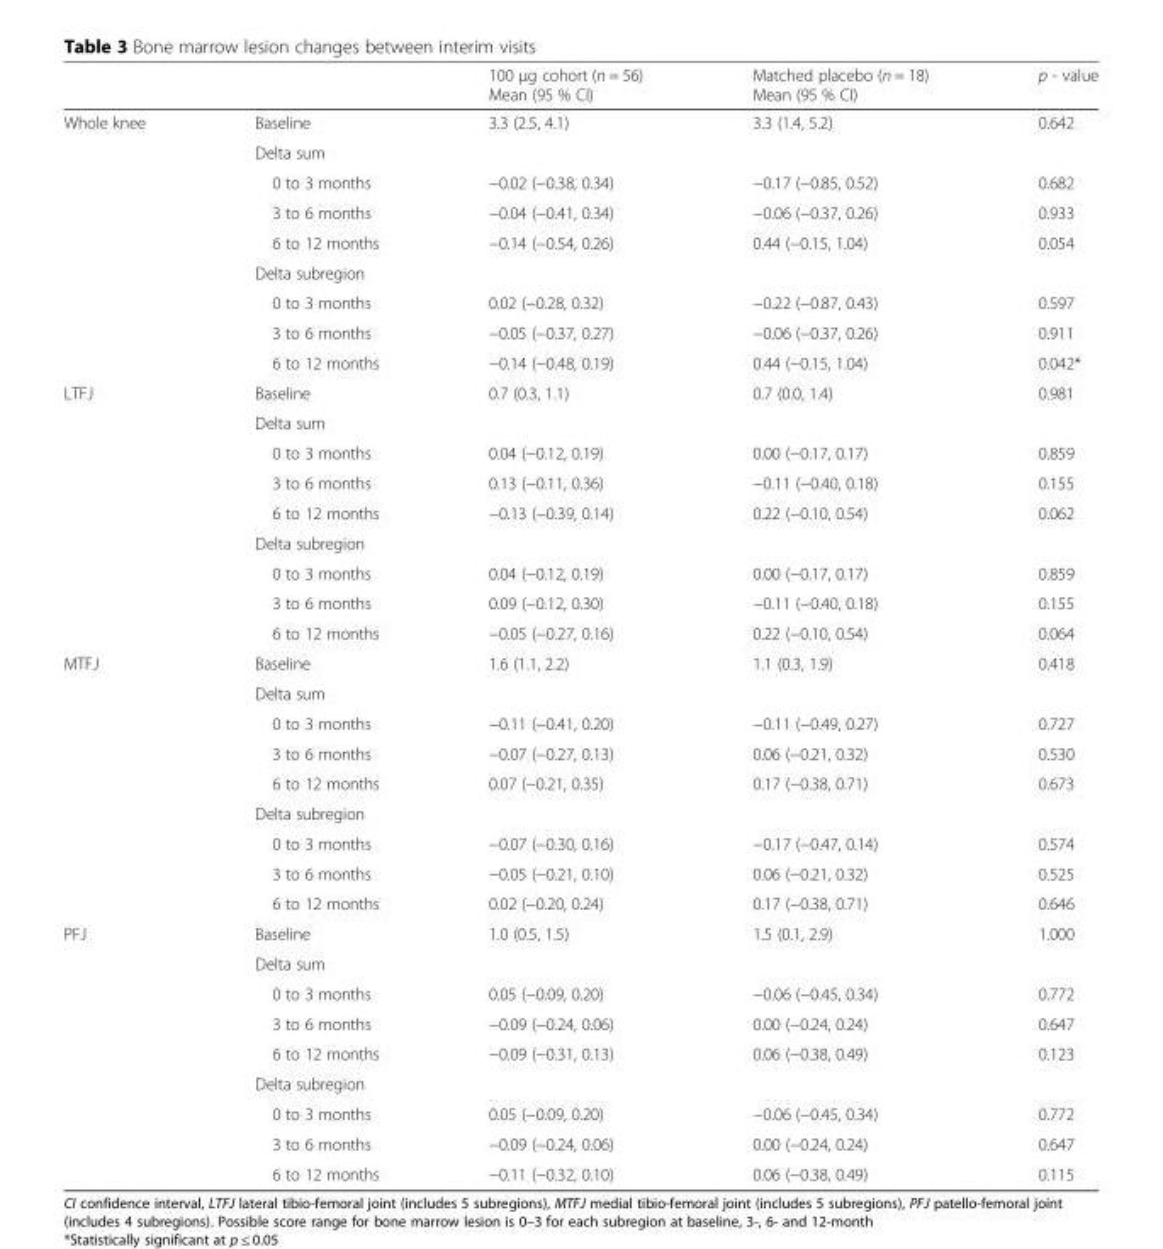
<table><thead><tr><td></td><td></td><td>100 μg cohort (n = 56) Mean (95 % CI)</td><td>Matched placebo (n = 18) Mean (95 % CI)</td><td>p - value</td></tr></thead><tbody><tr><td rowspan="9">Whole knee</td><td>Baseline</td><td>3.3 (2.5, 4.1)</td><td>3.3 (1.4, 5.2)</td><td>0.642</td></tr><tr><td>Delta sum</td><td></td><td></td><td></td></tr><tr><td>0 to 3 months</td><td>−0.02 (−0.38, 0.34)</td><td>−0.17 (−0.85, 0.52)</td><td>0.682</td></tr><tr><td>3 to 6 months</td><td>−0.04 (−0.41, 0.34)</td><td>−0.06 (−0.37, 0.26)</td><td>0.933</td></tr><tr><td>6 to 12 months</td><td>−0.14 (−0.54, 0.26)</td><td>0.44 (−0.15, 1.04)</td><td>0.054</td></tr><tr><td>Delta subregion</td><td></td><td></td><td></td></tr><tr><td>0 to 3 months</td><td>0.02 (−0.28, 0.32)</td><td>−0.22 (−0.87, 0.43)</td><td>0.597</td></tr><tr><td>3 to 6 months</td><td>−0.05 (−0.37, 0.27)</td><td>−0.06 (−0.37, 0.26)</td><td>0.911</td></tr><tr><td>6 to 12 months</td><td>−0.14 (−0.48, 0.19)</td><td>0.44 (−0.15, 1.04)</td><td>0.042*</td></tr><tr><td rowspan="9">LTFJ</td><td>Baseline</td><td>0.7 (0.3, 1.1)</td><td>0.7 (0.0, 1.4)</td><td>0.981</td></tr><tr><td>Delta sum</td><td></td><td></td><td></td></tr><tr><td>0 to 3 months</td><td>0.04 (−0.12, 0.19)</td><td>0.00 (−0.17, 0.17)</td><td>0.859</td></tr><tr><td>3 to 6 months</td><td>0.13 (−0.11, 0.36)</td><td>−0.11 (−0.40, 0.18)</td><td>0.155</td></tr><tr><td>6 to 12 months</td><td>−0.13 (−0.39, 0.14)</td><td>0.22 (−0.10, 0.54)</td><td>0.062</td></tr><tr><td>Delta subregion</td><td></td><td></td><td></td></tr><tr><td>0 to 3 months</td><td>0.04 (−0.12, 0.19)</td><td>0.00 (−0.17, 0.17)</td><td>0.859</td></tr><tr><td>3 to 6 months</td><td>0.09 (−0.12, 0.30)</td><td>−0.11 (−0.40, 0.18)</td><td>0.155</td></tr><tr><td>6 to 12 months</td><td>−0.05 (−0.27, 0.16)</td><td>0.22 (−0.10, 0.54)</td><td>0.064</td></tr><tr><td rowspan="9">MTFJ</td><td>Baseline</td><td>1.6 (1.1, 2.2)</td><td>1.1 (0.3, 1.9)</td><td>0.418</td></tr><tr><td>Delta sum</td><td></td><td></td><td></td></tr><tr><td>0 to 3 months</td><td>−0.11 (−0.41, 0.20)</td><td>−0.11 (−0.49, 0.27)</td><td>0.727</td></tr><tr><td>3 to 6 months</td><td>−0.07 (−0.27, 0.13)</td><td>0.06 (−0.21, 0.32)</td><td>0.530</td></tr><tr><td>6 to 12 months</td><td>0.07 (−0.21, 0.35)</td><td>0.17 (−0.38, 0.71)</td><td>0.673</td></tr><tr><td>Delta subregion</td><td></td><td></td><td></td></tr><tr><td>0 to 3 months</td><td>−0.07 (−0.30, 0.16)</td><td>−0.17 (−0.47, 0.14)</td><td>0.574</td></tr><tr><td>3 to 6 months</td><td>−0.05 (−0.21, 0.10)</td><td>0.06 (−0.21, 0.32)</td><td>0.525</td></tr><tr><td>6 to 12 months</td><td>0.02 (−0.20, 0.24)</td><td>0.17 (−0.38, 0.71)</td><td>0.646</td></tr><tr><td rowspan="9">PFJ</td><td>Baseline</td><td>1.0 (0.5, 1.5)</td><td>1.5 (0.1, 2.9)</td><td>1.000</td></tr><tr><td>Delta sum</td><td></td><td></td><td></td></tr><tr><td>0 to 3 months</td><td>0.05 (−0.09, 0.20)</td><td>−0.06 (−0.45, 0.34)</td><td>0.772</td></tr><tr><td>3 to 6 months</td><td>−0.09 (−0.24, 0.06)</td><td>0.00 (−0.24, 0.24)</td><td>0.647</td></tr><tr><td>6 to 12 months</td><td>−0.09 (−0.31, 0.13)</td><td>0.06 (−0.38, 0.49)</td><td>0.123</td></tr><tr><td>Delta subregion</td><td></td><td></td><td></td></tr><tr><td>0 to 3 months</td><td>0.05 (−0.09, 0.20)</td><td>−0.06 (−0.45, 0.34)</td><td>0.772</td></tr><tr><td>3 to 6 months</td><td>−0.09 (−0.24, 0.06)</td><td>0.00 (−0.24, 0.24)</td><td>0.647</td></tr><tr><td>6 to 12 months</td><td>−0.11 (−0.32, 0.10)</td><td>0.06 (−0.38, 0.49)</td><td>0.115</td></tr></tbody></table>